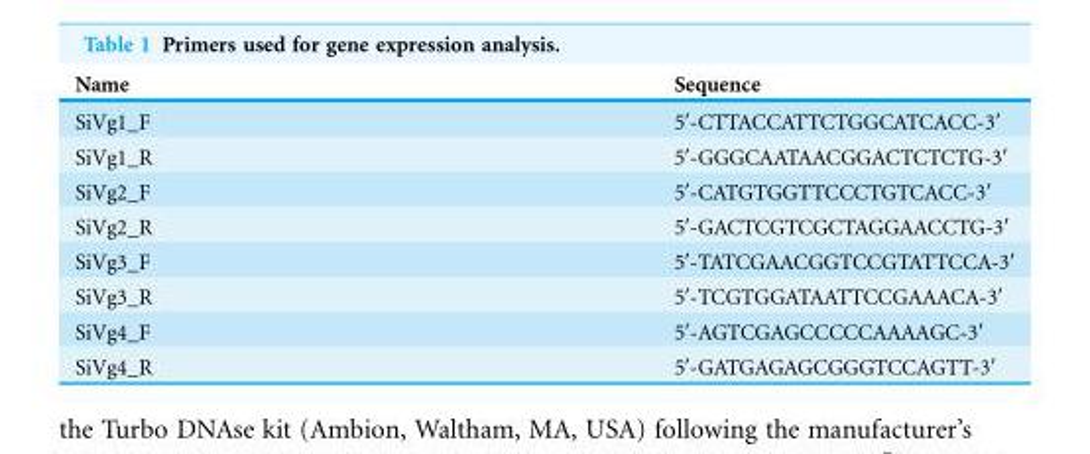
<table><thead><tr><td>Name</td><td>Sequence</td></tr></thead><tbody><tr><td>SiVg1_F</td><td>5′-CTTACCATTCTGGCATCACC-3′</td></tr><tr><td>SiVg1_R</td><td>5′-GGGCAATAACGGACTCTCTG-3′</td></tr><tr><td>SiVg2_F</td><td>5′-CATGTGGTTCCCTGTCACC-3′</td></tr><tr><td>SiVg2_R</td><td>5′-GACTCGTCGCTAGGAACCTG-3′</td></tr><tr><td>SiVg3_F</td><td>5′-TATCGAACGGTCCGTATTCCA-3′</td></tr><tr><td>SiVg3_R</td><td>5′-TCGTGGATAATTCCGAAACA-3′</td></tr><tr><td>SiVg4_F</td><td>5′-AGTCGAGCCCCCAAAAGC-3′</td></tr><tr><td>SiVg4_R</td><td>5′-GATGAGAGCGGGTCCAGTT-3′</td></tr></tbody></table>